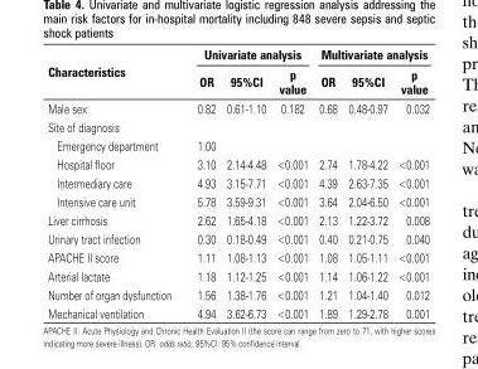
<table><thead><tr><td rowspan="2">Characteristics</td><td colspan="3">Univariate analysis</td><td colspan="3">Multivariate analysis</td></tr><tr><td>OR</td><td>95%CI</td><td>p value</td><td>OR</td><td>95%CI</td><td>p value</td></tr></thead><tbody><tr><td>Male sex</td><td>0.82</td><td>0.61-1.10</td><td>0.182</td><td>0.68</td><td>0.48-0.97</td><td>0.032</td></tr><tr><td colspan="7">Site of diagnosis</td></tr><tr><td>Emergency department</td><td>1.00</td><td></td><td></td><td></td><td></td><td></td></tr><tr><td>Hospital floor</td><td>3.10</td><td>2.14-4.48</td><td>&lt;0.001</td><td>2.74</td><td>1.78-4.22</td><td>&lt;0.001</td></tr><tr><td>Intermediary care</td><td>4.93</td><td>3.15-7.71</td><td>&lt;0.001</td><td>4.39</td><td>2.63-7.35</td><td>&lt;0.001</td></tr><tr><td>Intensive care unit</td><td>5.78</td><td>3.59-9.31</td><td>&lt;0.001</td><td>3.64</td><td>2.04-6.50</td><td>&lt;0.001</td></tr><tr><td>Liver cirrhosis</td><td>2.62</td><td>1.65-4.18</td><td>&lt;0.001</td><td>2.13</td><td>1.22-3.72</td><td>0.008</td></tr><tr><td>Urinary tract infection</td><td>0.30</td><td>0.18-0.49</td><td>&lt;0.001</td><td>0.40</td><td>0.21-0.75</td><td>0.040</td></tr><tr><td>APACHE II score</td><td>1.11</td><td>1.08-1.13</td><td>&lt;0.001</td><td>1.08</td><td>1.05-1.11</td><td>&lt;0.001</td></tr><tr><td>Arterial lactate</td><td>1.18</td><td>1.12-1.25</td><td>&lt;0.001</td><td>1.14</td><td>1.06-1.22</td><td>&lt;0.001</td></tr><tr><td>Number of organ dysfunction</td><td>1.56</td><td>1.38-1.76</td><td>&lt;0.001</td><td>1.21</td><td>1.04-1.40</td><td>0.012</td></tr><tr><td>Mechanical ventilation</td><td>4.94</td><td>3.62-6.73</td><td>&lt;0.001</td><td>1.89</td><td>1.29-2.78</td><td>0.001</td></tr></tbody></table>